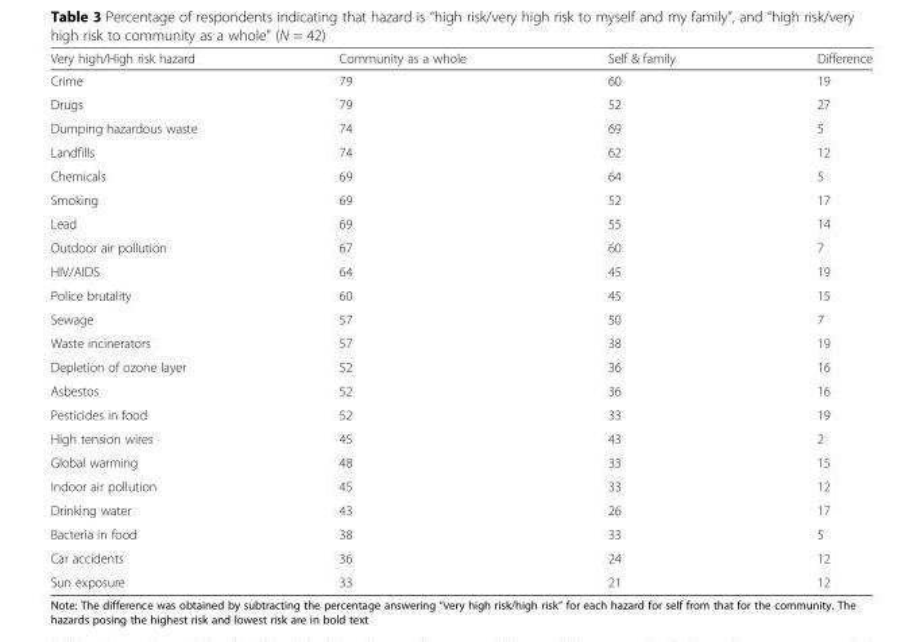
<table><thead><tr><td>Very high/High risk hazard</td><td>Community as a whole</td><td>Self &amp; family</td><td>Difference</td></tr></thead><tbody><tr><td>Crime</td><td>79</td><td>60</td><td>19</td></tr><tr><td>Drugs</td><td>79</td><td>52</td><td>27</td></tr><tr><td>Dumping hazardous waste</td><td>74</td><td>69</td><td>5</td></tr><tr><td>Landfills</td><td>74</td><td>62</td><td>12</td></tr><tr><td>Chemicals</td><td>69</td><td>64</td><td>5</td></tr><tr><td>Smoking</td><td>69</td><td>52</td><td>17</td></tr><tr><td>Lead</td><td>69</td><td>55</td><td>14</td></tr><tr><td>Outdoor air pollution</td><td>67</td><td>60</td><td>7</td></tr><tr><td>HIV/AIDS</td><td>64</td><td>45</td><td>19</td></tr><tr><td>Police brutality</td><td>60</td><td>45</td><td>15</td></tr><tr><td>Sewage</td><td>57</td><td>50</td><td>7</td></tr><tr><td>Waste incinerators</td><td>57</td><td>38</td><td>19</td></tr><tr><td>Depletion of ozone layer</td><td>52</td><td>36</td><td>16</td></tr><tr><td>Asbestos</td><td>52</td><td>36</td><td>16</td></tr><tr><td>Pesticides in food</td><td>52</td><td>33</td><td>19</td></tr><tr><td>High tension wires</td><td>45</td><td>43</td><td>2</td></tr><tr><td>Global warming</td><td>48</td><td>33</td><td>15</td></tr><tr><td>Indoor air pollution</td><td>45</td><td>33</td><td>12</td></tr><tr><td>Drinking water</td><td>43</td><td>26</td><td>17</td></tr><tr><td>Bacteria in food</td><td>38</td><td>33</td><td>5</td></tr><tr><td>Car accidents</td><td>36</td><td>24</td><td>12</td></tr><tr><td>Sun exposure</td><td>33</td><td>21</td><td>12</td></tr></tbody></table>